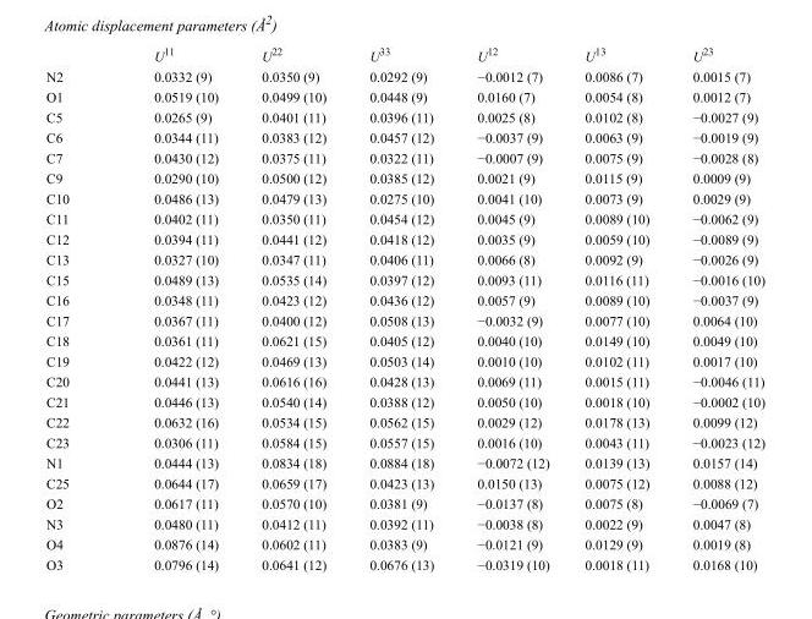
<table><thead><tr><td></td><td>U<sup>11</sup></td><td>U<sup>22</sup></td><td>U<sup>33</sup></td><td>U<sup>12</sup></td><td>U<sup>13</sup></td><td>U<sup>23</sup></td></tr></thead><tbody><tr><td>N2</td><td>0.0332 (9)</td><td>0.0350 (9)</td><td>0.0292 (9)</td><td>−0.0012 (7)</td><td>0.0086 (7)</td><td>0.0015 (7)</td></tr><tr><td>O1</td><td>0.0519 (10)</td><td>0.0499 (10)</td><td>0.0448 (9)</td><td>0.0160 (7)</td><td>0.0054 (8)</td><td>0.0012 (7)</td></tr><tr><td>C5</td><td>0.0265 (9)</td><td>0.0401 (11)</td><td>0.0396 (11)</td><td>0.0025 (8)</td><td>0.0102 (8)</td><td>−0.0027 (9)</td></tr><tr><td>C6</td><td>0.0344 (11)</td><td>0.0383 (12)</td><td>0.0457 (12)</td><td>−0.0037 (9)</td><td>0.0063 (9)</td><td>−0.0019 (9)</td></tr><tr><td>C7</td><td>0.0430 (12)</td><td>0.0375 (11)</td><td>0.0322 (11)</td><td>−0.0007 (9)</td><td>0.0075 (9)</td><td>−0.0028 (8)</td></tr><tr><td>C9</td><td>0.0290 (10)</td><td>0.0500 (12)</td><td>0.0385 (12)</td><td>0.0021 (9)</td><td>0.0115 (9)</td><td>0.0009 (9)</td></tr><tr><td>C10</td><td>0.0486 (13)</td><td>0.0479 (13)</td><td>0.0275 (10)</td><td>0.0041 (10)</td><td>0.0073 (9)</td><td>0.0029 (9)</td></tr><tr><td>C11</td><td>0.0402 (11)</td><td>0.0350 (11)</td><td>0.0454 (12)</td><td>0.0045 (9)</td><td>0.0089 (10)</td><td>−0.0062 (9)</td></tr><tr><td>C12</td><td>0.0394 (11)</td><td>0.0441 (12)</td><td>0.0418 (12)</td><td>0.0035 (9)</td><td>0.0059 (10)</td><td>−0.0089 (9)</td></tr><tr><td>C13</td><td>0.0327 (10)</td><td>0.0347 (11)</td><td>0.0406 (11)</td><td>0.0066 (8)</td><td>0.0092 (9)</td><td>−0.0026 (9)</td></tr><tr><td>C15</td><td>0.0489 (13)</td><td>0.0535 (14)</td><td>0.0397 (12)</td><td>0.0093 (11)</td><td>0.0116 (11)</td><td>−0.0016 (10)</td></tr><tr><td>C16</td><td>0.0348 (11)</td><td>0.0423 (12)</td><td>0.0436 (12)</td><td>0.0057 (9)</td><td>0.0089 (10)</td><td>−0.0037 (9)</td></tr><tr><td>C17</td><td>0.0367 (11)</td><td>0.0400 (12)</td><td>0.0508 (13)</td><td>−0.0032 (9)</td><td>0.0077 (10)</td><td>0.0064 (10)</td></tr><tr><td>C18</td><td>0.0361 (11)</td><td>0.0621 (15)</td><td>0.0405 (12)</td><td>0.0040 (10)</td><td>0.0149 (10)</td><td>0.0049 (10)</td></tr><tr><td>C19</td><td>0.0422 (12)</td><td>0.0469 (13)</td><td>0.0503 (14)</td><td>0.0010 (10)</td><td>0.0102 (11)</td><td>0.0017 (10)</td></tr><tr><td>C20</td><td>0.0441 (13)</td><td>0.0616 (16)</td><td>0.0428 (13)</td><td>0.0069 (11)</td><td>0.0015 (11)</td><td>−0.0046 (11)</td></tr><tr><td>C21</td><td>0.0446 (13)</td><td>0.0540 (14)</td><td>0.0388 (12)</td><td>0.0050 (10)</td><td>0.0018 (10)</td><td>−0.0002 (10)</td></tr><tr><td>C22</td><td>0.0632 (16)</td><td>0.0534 (15)</td><td>0.0562 (15)</td><td>0.0029 (12)</td><td>0.0178 (13)</td><td>0.0099 (12)</td></tr><tr><td>C23</td><td>0.0306 (11)</td><td>0.0584 (15)</td><td>0.0557 (15)</td><td>0.0016 (10)</td><td>0.0043 (11)</td><td>−0.0023 (12)</td></tr><tr><td>N1</td><td>0.0444 (13)</td><td>0.0834 (18)</td><td>0.0884 (18)</td><td>−0.0072 (12)</td><td>0.0139 (13)</td><td>0.0157 (14)</td></tr><tr><td>C25</td><td>0.0644 (17)</td><td>0.0659 (17)</td><td>0.0423 (13)</td><td>0.0150 (13)</td><td>0.0075 (12)</td><td>0.0088 (12)</td></tr><tr><td>O2</td><td>0.0617 (11)</td><td>0.0570 (10)</td><td>0.0381 (9)</td><td>−0.0137 (8)</td><td>0.0075 (8)</td><td>−0.0069 (7)</td></tr><tr><td>N3</td><td>0.0480 (11)</td><td>0.0412 (11)</td><td>0.0392 (11)</td><td>−0.0038 (8)</td><td>0.0022 (9)</td><td>0.0047 (8)</td></tr><tr><td>O4</td><td>0.0876 (14)</td><td>0.0602 (11)</td><td>0.0383 (9)</td><td>−0.0121 (9)</td><td>0.0129 (9)</td><td>0.0019 (8)</td></tr><tr><td>O3</td><td>0.0796 (14)</td><td>0.0641 (12)</td><td>0.0676 (13)</td><td>−0.0319 (10)</td><td>0.0018 (11)</td><td>0.0168 (10)</td></tr></tbody></table>